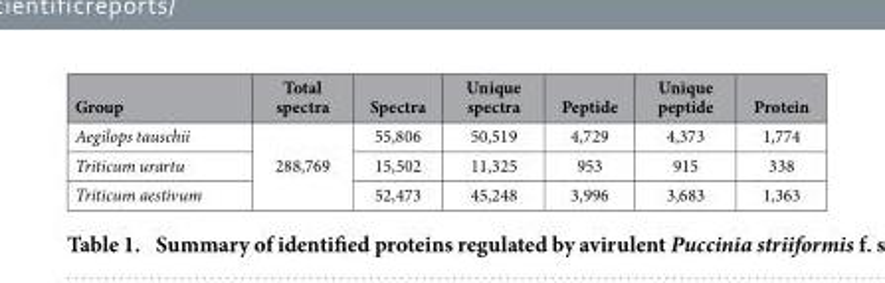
<table><thead><tr><td>Group</td><td>Total spectra</td><td>Spectra</td><td>Unique spectra</td><td>Peptide</td><td>Unique peptide</td><td>Protein</td></tr></thead><tbody><tr><td>Aegilops tauschii</td><td rowspan="3">288,769</td><td>55,806</td><td>50,519</td><td>4,729</td><td>4,373</td><td>1,774</td></tr><tr><td>Triticum urartu</td><td>15,502</td><td>11,325</td><td>953</td><td>915</td><td>338</td></tr><tr><td>Triticum aestivum</td><td>52,473</td><td>45,248</td><td>3,996</td><td>3,683</td><td>1,363</td></tr></tbody></table>